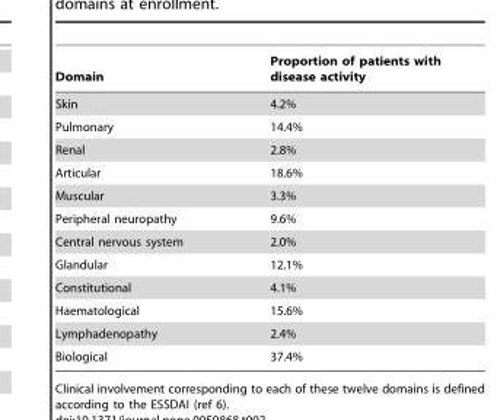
<table><thead><tr><td>Domain</td><td>Proportion of patients with disease activity</td></tr></thead><tbody><tr><td>Skin</td><td>4.2%</td></tr><tr><td>Pulmonary</td><td>14.4%</td></tr><tr><td>Renal</td><td>2.8%</td></tr><tr><td>Articular</td><td>18.6%</td></tr><tr><td>Muscular</td><td>3.3%</td></tr><tr><td>Peripheral neuropathy</td><td>9.6%</td></tr><tr><td>Central nervous system</td><td>2.0%</td></tr><tr><td>Glandular</td><td>12.1%</td></tr><tr><td>Constitutional</td><td>4.1%</td></tr><tr><td>Haematological</td><td>15.6%</td></tr><tr><td>Lymphadenopathy</td><td>2.4%</td></tr><tr><td>Biological</td><td>37.4%</td></tr></tbody></table>